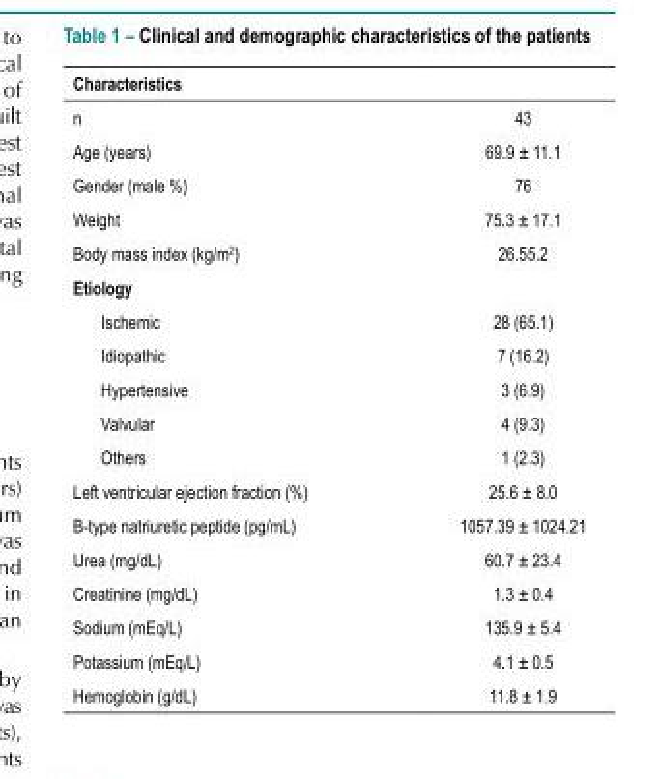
<table><thead><tr><td>Characteristics</td><td></td></tr></thead><tbody><tr><td>n</td><td>43</td></tr><tr><td>Age (years)</td><td>69.9 ± 11.1</td></tr><tr><td>Gender (male %)</td><td>76</td></tr><tr><td>Weight</td><td>75.3 ± 17.1</td></tr><tr><td>Body mass index (kg/m<sup>2</sup>)</td><td>26.55.2</td></tr><tr><td colspan="2">Etiology</td></tr><tr><td>Ischemic</td><td>28 (65.1)</td></tr><tr><td>Idiopathic</td><td>7 (16.2)</td></tr><tr><td>Hypertensive</td><td>3 (6.9)</td></tr><tr><td>Valvular</td><td>4 (9.3)</td></tr><tr><td>Others</td><td>1 (2.3)</td></tr><tr><td>Left ventricular ejection fraction (%)</td><td>25.6 ± 8.0</td></tr><tr><td>B-type natriuretic peptide (pg/mL)</td><td>1057.39 ± 1024.21</td></tr><tr><td>Urea (mg/dL)</td><td>60.7 ± 23.4</td></tr><tr><td>Creatinine (mg/dL)</td><td>1.3 ± 0.4</td></tr><tr><td>Sodium (mEq/L)</td><td>135.9 ± 5.4</td></tr><tr><td>Potassium (mEq/L)</td><td>4.1 ± 0.5</td></tr><tr><td>Hemoglobin (g/dL)</td><td>11.8 ± 1.9</td></tr></tbody></table>